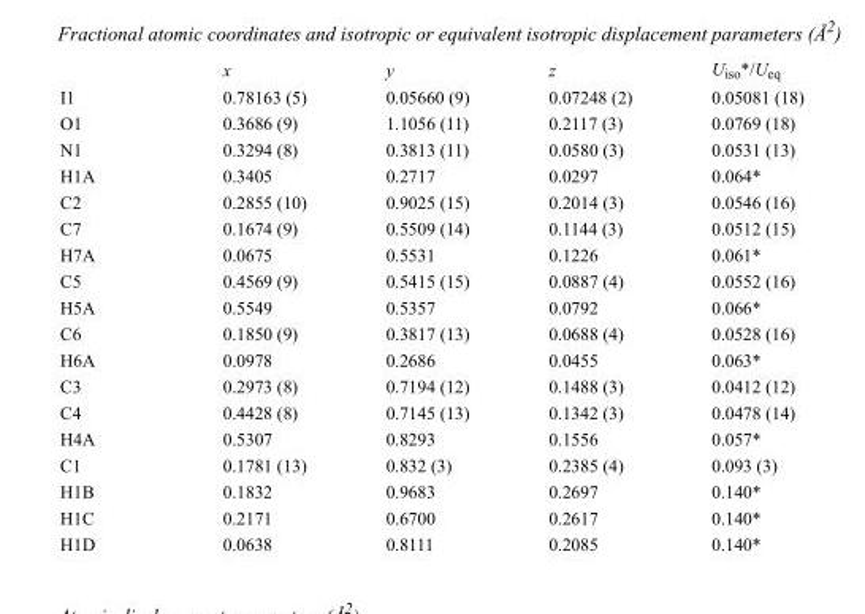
<table><thead><tr><td></td><td>x</td><td>y</td><td>z</td><td>U<sub>iso</sub>*/U<sub>eq</sub></td></tr></thead><tbody><tr><td>I1</td><td>0.78163 (5)</td><td>0.05660 (9)</td><td>0.07248 (2)</td><td>0.05081 (18)</td></tr><tr><td>O1</td><td>0.3686 (9)</td><td>1.1056 (11)</td><td>0.2117 (3)</td><td>0.0769 (18)</td></tr><tr><td>N1</td><td>0.3294 (8)</td><td>0.3813 (11)</td><td>0.0580 (3)</td><td>0.0531 (13)</td></tr><tr><td>H1A</td><td>0.3405</td><td>0.2717</td><td>0.0297</td><td>0.064*</td></tr><tr><td>C2</td><td>0.2855 (10)</td><td>0.9025 (15)</td><td>0.2014 (3)</td><td>0.0546 (16)</td></tr><tr><td>C7</td><td>0.1674 (9)</td><td>0.5509 (14)</td><td>0.1144 (3)</td><td>0.0512 (15)</td></tr><tr><td>H7A</td><td>0.0675</td><td>0.5531</td><td>0.1226</td><td>0.061*</td></tr><tr><td>C5</td><td>0.4569 (9)</td><td>0.5415 (15)</td><td>0.0887 (4)</td><td>0.0552 (16)</td></tr><tr><td>H5A</td><td>0.5549</td><td>0.5357</td><td>0.0792</td><td>0.066*</td></tr><tr><td>C6</td><td>0.1850 (9)</td><td>0.3817 (13)</td><td>0.0688 (4)</td><td>0.0528 (16)</td></tr><tr><td>H6A</td><td>0.0978</td><td>0.2686</td><td>0.0455</td><td>0.063*</td></tr><tr><td>C3</td><td>0.2973 (8)</td><td>0.7194 (12)</td><td>0.1488 (3)</td><td>0.0412 (12)</td></tr><tr><td>C4</td><td>0.4428 (8)</td><td>0.7145 (13)</td><td>0.1342 (3)</td><td>0.0478 (14)</td></tr><tr><td>H4A</td><td>0.5307</td><td>0.8293</td><td>0.1556</td><td>0.057*</td></tr><tr><td>C1</td><td>0.1781 (13)</td><td>0.832 (3)</td><td>0.2385 (4)</td><td>0.093 (3)</td></tr><tr><td>H1B</td><td>0.1832</td><td>0.9683</td><td>0.2697</td><td>0.140*</td></tr><tr><td>H1C</td><td>0.2171</td><td>0.6700</td><td>0.2617</td><td>0.140*</td></tr><tr><td>H1D</td><td>0.0638</td><td>0.8111</td><td>0.2085</td><td>0.140*</td></tr></tbody></table>